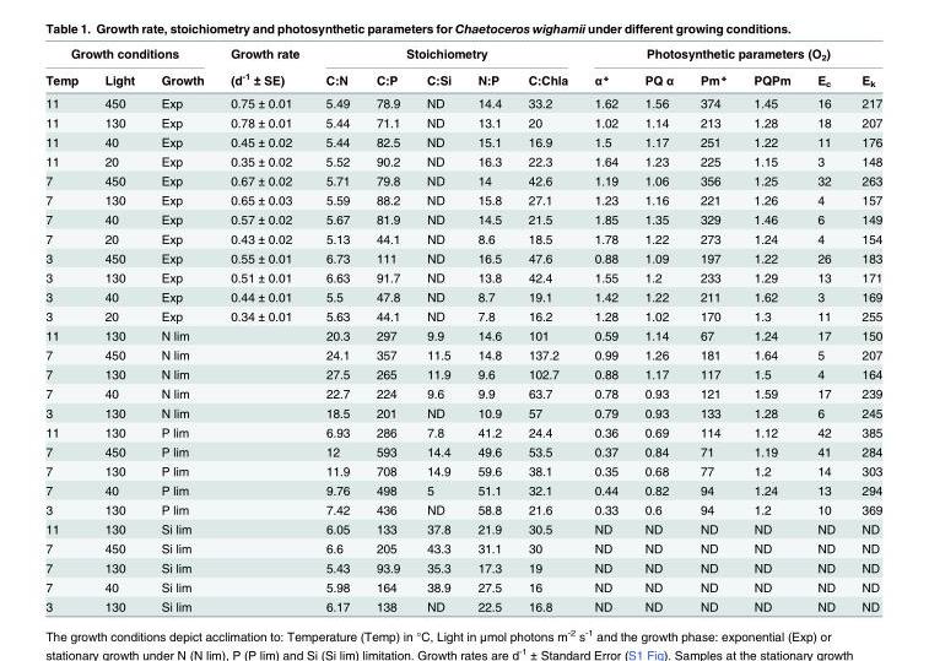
<table><thead><tr><td colspan="3">Growth conditions</td><td rowspan="2">Growth rate (d<sup>-1</sup> ± SE)</td><td colspan="5">Stoichiometry</td><td colspan="6">Photosynthetic parameters (O<sub>2</sub>)</td></tr><tr><td>Temp</td><td>Light</td><td>Growth</td><td>C:N</td><td>C:P</td><td>C:Si</td><td>N:P</td><td>C:Chla</td><td>α*</td><td>PQ α</td><td>Pm*</td><td>PQPm</td><td>E<sub>c</sub></td><td>E<sub>k</sub></td></tr></thead><tbody><tr><td>11</td><td>450</td><td>Exp</td><td>0.75 ± 0.01</td><td>5.49</td><td>78.9</td><td>ND</td><td>14.4</td><td>33.2</td><td>1.62</td><td>1.56</td><td>374</td><td>1.45</td><td>16</td><td>217</td></tr><tr><td>11</td><td>130</td><td>Exp</td><td>0.78 ± 0.01</td><td>5.44</td><td>71.1</td><td>ND</td><td>13.1</td><td>20</td><td>1.02</td><td>1.14</td><td>213</td><td>1.28</td><td>18</td><td>207</td></tr><tr><td>11</td><td>40</td><td>Exp</td><td>0.45 ± 0.02</td><td>5.44</td><td>82.5</td><td>ND</td><td>15.1</td><td>16.9</td><td>1.5</td><td>1.17</td><td>251</td><td>1.22</td><td>11</td><td>176</td></tr><tr><td>11</td><td>20</td><td>Exp</td><td>0.35 ± 0.02</td><td>5.52</td><td>90.2</td><td>ND</td><td>16.3</td><td>22.3</td><td>1.64</td><td>1.23</td><td>225</td><td>1.15</td><td>3</td><td>148</td></tr><tr><td>7</td><td>450</td><td>Exp</td><td>0.67 ± 0.02</td><td>5.71</td><td>79.8</td><td>ND</td><td>14</td><td>42.6</td><td>1.19</td><td>1.06</td><td>356</td><td>1.25</td><td>32</td><td>263</td></tr><tr><td>7</td><td>130</td><td>Exp</td><td>0.65 ± 0.03</td><td>5.59</td><td>88.2</td><td>ND</td><td>15.8</td><td>27.1</td><td>1.23</td><td>1.16</td><td>221</td><td>1.26</td><td>4</td><td>157</td></tr><tr><td>7</td><td>40</td><td>Exp</td><td>0.57 ± 0.02</td><td>5.67</td><td>81.9</td><td>ND</td><td>14.5</td><td>21.5</td><td>1.85</td><td>1.35</td><td>329</td><td>1.46</td><td>6</td><td>149</td></tr><tr><td>7</td><td>20</td><td>Exp</td><td>0.43 ± 0.02</td><td>5.13</td><td>44.1</td><td>ND</td><td>8.6</td><td>18.5</td><td>1.78</td><td>1.22</td><td>273</td><td>1.24</td><td>4</td><td>154</td></tr><tr><td>3</td><td>450</td><td>Exp</td><td>0.55 ± 0.01</td><td>6.73</td><td>111</td><td>ND</td><td>16.5</td><td>47.6</td><td>0.88</td><td>1.09</td><td>197</td><td>1.22</td><td>26</td><td>183</td></tr><tr><td>3</td><td>130</td><td>Exp</td><td>0.51 ± 0.01</td><td>6.63</td><td>91.7</td><td>ND</td><td>13.8</td><td>42.4</td><td>1.55</td><td>1.2</td><td>233</td><td>1.29</td><td>13</td><td>171</td></tr><tr><td>3</td><td>40</td><td>Exp</td><td>0.44 ± 0.01</td><td>5.5</td><td>47.8</td><td>ND</td><td>8.7</td><td>19.1</td><td>1.42</td><td>1.22</td><td>211</td><td>1.62</td><td>3</td><td>169</td></tr><tr><td>3</td><td>20</td><td>Exp</td><td>0.34 ± 0.01</td><td>5.63</td><td>44.1</td><td>ND</td><td>7.8</td><td>16.2</td><td>1.28</td><td>1.02</td><td>170</td><td>1.3</td><td>11</td><td>255</td></tr><tr><td>11</td><td>130</td><td>N lim</td><td></td><td>20.3</td><td>297</td><td>9.9</td><td>14.6</td><td>101</td><td>0.59</td><td>1.14</td><td>67</td><td>1.24</td><td>17</td><td>150</td></tr><tr><td>7</td><td>450</td><td>N lim</td><td></td><td>24.1</td><td>357</td><td>11.5</td><td>14.8</td><td>137.2</td><td>0.99</td><td>1.26</td><td>181</td><td>1.64</td><td>5</td><td>207</td></tr><tr><td>7</td><td>130</td><td>N lim</td><td></td><td>27.5</td><td>265</td><td>11.9</td><td>9.6</td><td>102.7</td><td>0.88</td><td>1.17</td><td>117</td><td>1.5</td><td>4</td><td>164</td></tr><tr><td>7</td><td>40</td><td>N lim</td><td></td><td>22.7</td><td>224</td><td>9.6</td><td>9.9</td><td>63.7</td><td>0.78</td><td>0.93</td><td>121</td><td>1.59</td><td>17</td><td>239</td></tr><tr><td>3</td><td>130</td><td>N lim</td><td></td><td>18.5</td><td>201</td><td>ND</td><td>10.9</td><td>57</td><td>0.79</td><td>0.93</td><td>133</td><td>1.28</td><td>6</td><td>245</td></tr><tr><td>11</td><td>130</td><td>P lim</td><td></td><td>6.93</td><td>286</td><td>7.8</td><td>41.2</td><td>24.4</td><td>0.36</td><td>0.69</td><td>114</td><td>1.12</td><td>42</td><td>385</td></tr><tr><td>7</td><td>450</td><td>P lim</td><td></td><td>12</td><td>593</td><td>14.4</td><td>49.6</td><td>53.5</td><td>0.37</td><td>0.84</td><td>71</td><td>1.19</td><td>41</td><td>284</td></tr><tr><td>7</td><td>130</td><td>P lim</td><td></td><td>11.9</td><td>708</td><td>14.9</td><td>59.6</td><td>38.1</td><td>0.35</td><td>0.68</td><td>77</td><td>1.2</td><td>14</td><td>303</td></tr><tr><td>7</td><td>40</td><td>P lim</td><td></td><td>9.76</td><td>498</td><td>5</td><td>51.1</td><td>32.1</td><td>0.44</td><td>0.82</td><td>94</td><td>1.24</td><td>13</td><td>294</td></tr><tr><td>3</td><td>130</td><td>P lim</td><td></td><td>7.42</td><td>436</td><td>ND</td><td>58.8</td><td>21.6</td><td>0.33</td><td>0.6</td><td>94</td><td>1.2</td><td>10</td><td>369</td></tr><tr><td>11</td><td>130</td><td>Si lim</td><td></td><td>6.05</td><td>133</td><td>37.8</td><td>21.9</td><td>30.5</td><td>ND</td><td>ND</td><td>ND</td><td>ND</td><td>ND</td><td>ND</td></tr><tr><td>7</td><td>450</td><td>Si lim</td><td></td><td>6.6</td><td>205</td><td>43.3</td><td>31.1</td><td>30</td><td>ND</td><td>ND</td><td>ND</td><td>ND</td><td>ND</td><td>ND</td></tr><tr><td>7</td><td>130</td><td>Si lim</td><td></td><td>5.43</td><td>93.9</td><td>35.3</td><td>17.3</td><td>19</td><td>ND</td><td>ND</td><td>ND</td><td>ND</td><td>ND</td><td>ND</td></tr><tr><td>7</td><td>40</td><td>Si lim</td><td></td><td>5.98</td><td>164</td><td>38.9</td><td>27.5</td><td>16</td><td>ND</td><td>ND</td><td>ND</td><td>ND</td><td>ND</td><td>ND</td></tr><tr><td>3</td><td>130</td><td>Si lim</td><td></td><td>6.17</td><td>138</td><td>ND</td><td>22.5</td><td>16.8</td><td>ND</td><td>ND</td><td>ND</td><td>ND</td><td>ND</td><td>ND</td></tr></tbody></table>